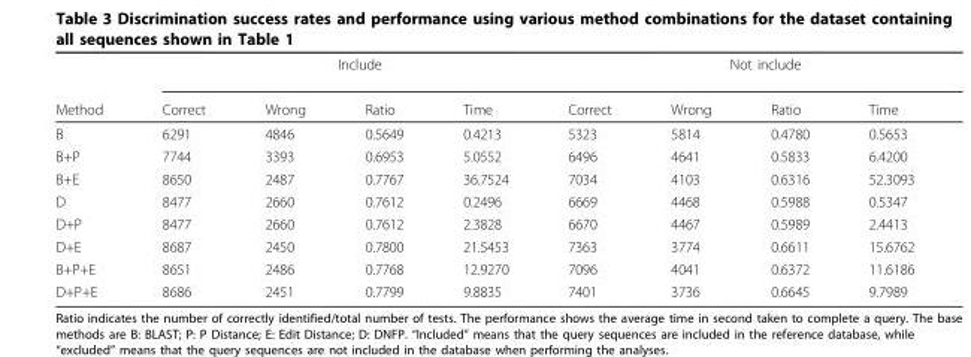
<table><thead><tr><td rowspan="2">Method</td><td colspan="4">Include</td><td colspan="4">Not include</td></tr><tr><td>Correct</td><td>Wrong</td><td>Ratio</td><td>Time</td><td>Correct</td><td>Wrong</td><td>Ratio</td><td>Time</td></tr></thead><tbody><tr><td>B</td><td>6291</td><td>4846</td><td>0.5649</td><td>0.4213</td><td>5323</td><td>5814</td><td>0.4780</td><td>0.5653</td></tr><tr><td>B+P</td><td>7744</td><td>3393</td><td>0.6953</td><td>5.0552</td><td>6496</td><td>4641</td><td>0.5833</td><td>6.4200</td></tr><tr><td>B+E</td><td>8650</td><td>2487</td><td>0.7767</td><td>36.7524</td><td>7034</td><td>4103</td><td>0.6316</td><td>52.3093</td></tr><tr><td>D</td><td>8477</td><td>2660</td><td>0.7612</td><td>0.2496</td><td>6669</td><td>4468</td><td>0.5988</td><td>0.5347</td></tr><tr><td>D+P</td><td>8477</td><td>2660</td><td>0.7612</td><td>2.3828</td><td>6670</td><td>4467</td><td>0.5989</td><td>2.4413</td></tr><tr><td>D+E</td><td>8687</td><td>2450</td><td>0.7800</td><td>21.5453</td><td>7363</td><td>3774</td><td>0.6611</td><td>15.6762</td></tr><tr><td>B+P+E</td><td>8651</td><td>2486</td><td>0.7768</td><td>12.9270</td><td>7096</td><td>4041</td><td>0.6372</td><td>11.6186</td></tr><tr><td>D+P+E</td><td>8686</td><td>2451</td><td>0.7799</td><td>9.8835</td><td>7401</td><td>3736</td><td>0.6645</td><td>9.7989</td></tr></tbody></table>